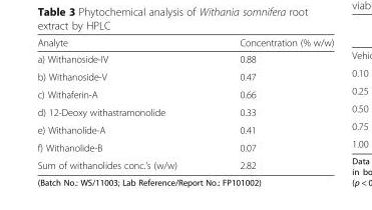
<table><thead><tr><td>Analyte</td><td>Concentration (% w/w)</td></tr></thead><tbody><tr><td>a) Withanoside-IV</td><td>0.88</td></tr><tr><td>b) Withanoside-V</td><td>0.47</td></tr><tr><td>c) Withaferin-A</td><td>0.66</td></tr><tr><td>d) 12-Deoxy withastramonolide</td><td>0.33</td></tr><tr><td>e) Withanolide-A</td><td>0.41</td></tr><tr><td>f) Withanolide-B</td><td>0.07</td></tr><tr><td>Sum of withanolides conc.’s (w/w)</td><td>2.82</td></tr></tbody></table>